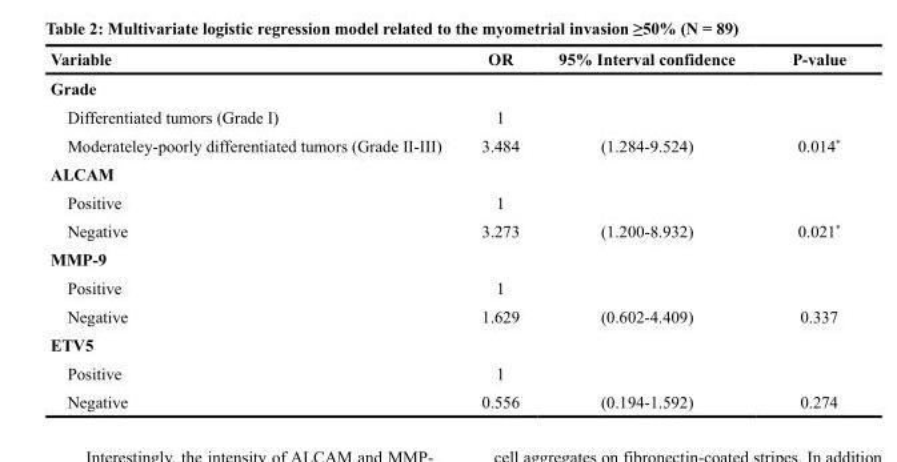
<table><thead><tr><td>Variable</td><td>OR</td><td>95% Interval confidence</td><td>P-value</td></tr></thead><tbody><tr><td colspan="4">Grade</td></tr><tr><td>Differentiated tumors (Grade I)</td><td>1</td><td></td><td></td></tr><tr><td>Moderateley-poorly differentiated tumors (Grade II-III)</td><td>3.484</td><td>(1.284-9.524)</td><td>0.014*</td></tr><tr><td colspan="4">ALCAM</td></tr><tr><td>Positive</td><td>1</td><td></td><td></td></tr><tr><td>Negative</td><td>3.273</td><td>(1.200-8.932)</td><td>0.021*</td></tr><tr><td colspan="4">MMP-9</td></tr><tr><td>Positive</td><td>1</td><td></td><td></td></tr><tr><td>Negative</td><td>1.629</td><td>(0.602-4.409)</td><td>0.337</td></tr><tr><td colspan="4">ETV5</td></tr><tr><td>Positive</td><td>1</td><td></td><td></td></tr><tr><td>Negative</td><td>0.556</td><td>(0.194-1.592)</td><td>0.274</td></tr></tbody></table>